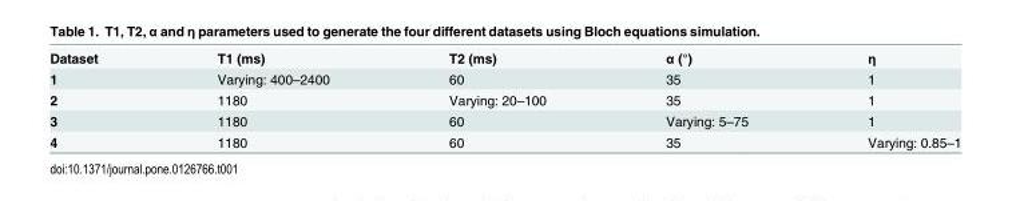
<table><tbody><tr><td>Dataset</td><td>T1 (ms)</td><td>T2 (ms)</td><td>α (°)</td><td>η</td></tr><tr><td>1</td><td>Varying: 400–2400</td><td>60</td><td>35</td><td>1</td></tr><tr><td>2</td><td>1180</td><td>Varying: 20–100</td><td>35</td><td>1</td></tr><tr><td>3</td><td>1180</td><td>60</td><td>Varying: 5–75</td><td>1</td></tr><tr><td>4</td><td>1180</td><td>60</td><td>35</td><td>Varying: 0.85–1</td></tr></tbody></table>